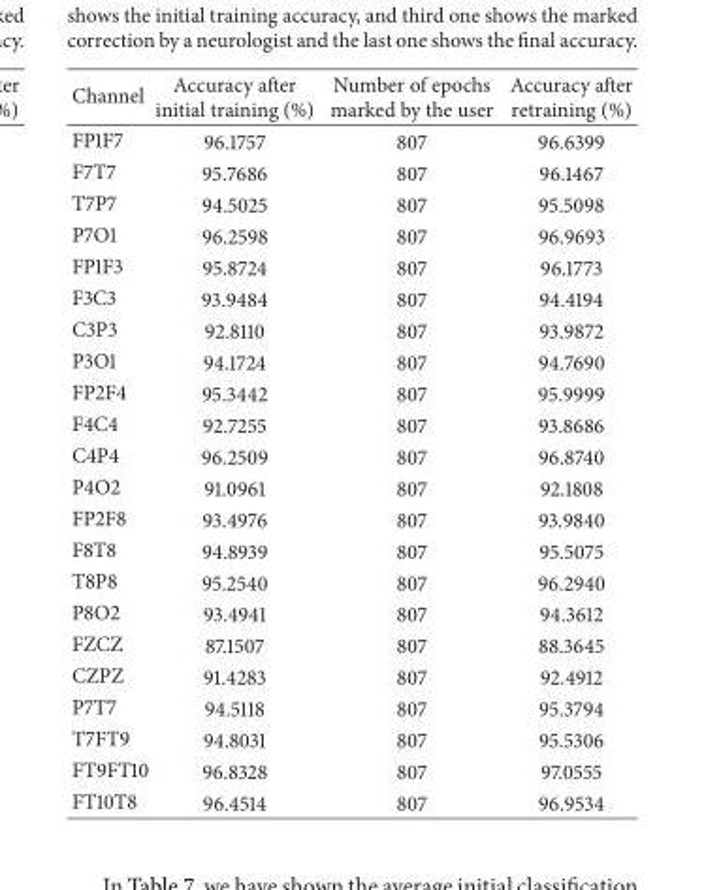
<table><thead><tr><td>Channel</td><td>Accuracy after initial training (%)</td><td>Number of epochs marked by the user</td><td>Accuracy after retraining (%)</td></tr></thead><tbody><tr><td>FP1F7</td><td>96.1757</td><td>807</td><td>96.6399</td></tr><tr><td>F7T7</td><td>95.7686</td><td>807</td><td>96.1467</td></tr><tr><td>T7P7</td><td>94.5025</td><td>807</td><td>95.5098</td></tr><tr><td>P7O1</td><td>96.2598</td><td>807</td><td>96.9693</td></tr><tr><td>FP1F3</td><td>95.8724</td><td>807</td><td>96.1773</td></tr><tr><td>F3C3</td><td>93.9484</td><td>807</td><td>94.4194</td></tr><tr><td>C3P3</td><td>92.8110</td><td>807</td><td>93.9872</td></tr><tr><td>P3O1</td><td>94.1724</td><td>807</td><td>94.7690</td></tr><tr><td>FP2F4</td><td>95.3442</td><td>807</td><td>95.9999</td></tr><tr><td>F4C4</td><td>92.7255</td><td>807</td><td>93.8686</td></tr><tr><td>C4P4</td><td>96.2509</td><td>807</td><td>96.8740</td></tr><tr><td>P4O2</td><td>91.0961</td><td>807</td><td>92.1808</td></tr><tr><td>FP2F8</td><td>93.4976</td><td>807</td><td>93.9840</td></tr><tr><td>F8T8</td><td>94.8939</td><td>807</td><td>95.5075</td></tr><tr><td>T8P8</td><td>95.2540</td><td>807</td><td>96.2940</td></tr><tr><td>P8O2</td><td>93.4941</td><td>807</td><td>94.3612</td></tr><tr><td>FZCZ</td><td>87.1507</td><td>807</td><td>88.3645</td></tr><tr><td>CZPZ</td><td>91.4283</td><td>807</td><td>92.4912</td></tr><tr><td>P7T7</td><td>94.5118</td><td>807</td><td>95.3794</td></tr><tr><td>T7FT9</td><td>94.8031</td><td>807</td><td>95.5306</td></tr><tr><td>FT9FT10</td><td>96.8328</td><td>807</td><td>97.0555</td></tr><tr><td>FT10T8</td><td>96.4514</td><td>807</td><td>96.9534</td></tr></tbody></table>